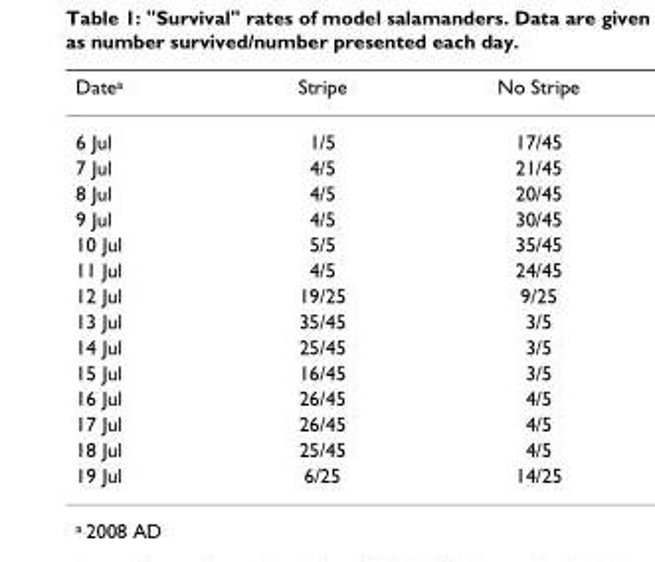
<table><thead><tr><td>Date<sup>a</sup></td><td>Stripe</td><td>No Stripe</td></tr></thead><tbody><tr><td>6 Jul</td><td>1/5</td><td>17/45</td></tr><tr><td>7 Jul</td><td>4/5</td><td>21/45</td></tr><tr><td>8 Jul</td><td>4/5</td><td>20/45</td></tr><tr><td>9 Jul</td><td>4/5</td><td>30/45</td></tr><tr><td>10 Jul</td><td>5/5</td><td>35/45</td></tr><tr><td>11 Jul</td><td>4/5</td><td>24/45</td></tr><tr><td>12 Jul</td><td>19/25</td><td>9/25</td></tr><tr><td>13 Jul</td><td>35/45</td><td>3/5</td></tr><tr><td>14 Jul</td><td>25/45</td><td>3/5</td></tr><tr><td>15 Jul</td><td>16/45</td><td>3/5</td></tr><tr><td>16 Jul</td><td>26/45</td><td>4/5</td></tr><tr><td>17 Jul</td><td>26/45</td><td>4/5</td></tr><tr><td>18 Jul</td><td>25/45</td><td>4/5</td></tr><tr><td>19 Jul</td><td>6/25</td><td>14/25</td></tr></tbody></table>